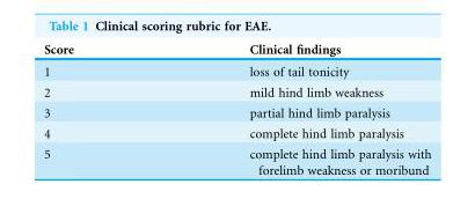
<table><thead><tr><td>Score</td><td>Clinical findings</td></tr></thead><tbody><tr><td>1</td><td>loss of tail tonicity</td></tr><tr><td>2</td><td>mild hind limb weakness</td></tr><tr><td>3</td><td>partial hind limb paralysis</td></tr><tr><td>4</td><td>complete hind limb paralysis</td></tr><tr><td>5</td><td>complete hind limb paralysis with forelimb weakness or moribund</td></tr></tbody></table>